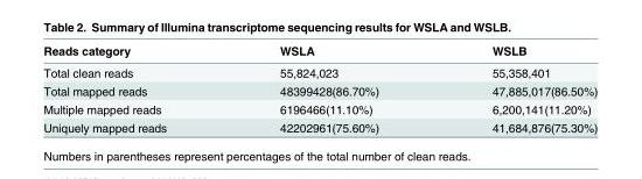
<table><thead><tr><td>Reads category</td><td>WSLA</td><td>WSLB</td></tr></thead><tbody><tr><td>Total clean reads</td><td>55,824,023</td><td>55,358,401</td></tr><tr><td>Total mapped reads</td><td>48399428(86.70%)</td><td>47,885,017(86.50%)</td></tr><tr><td>Multiple mapped reads</td><td>6196466(11.10%)</td><td>6,200,141(11.20%)</td></tr><tr><td>Uniquely mapped reads</td><td>42202961(75.60%)</td><td>41,684,876(75.30%)</td></tr></tbody></table>